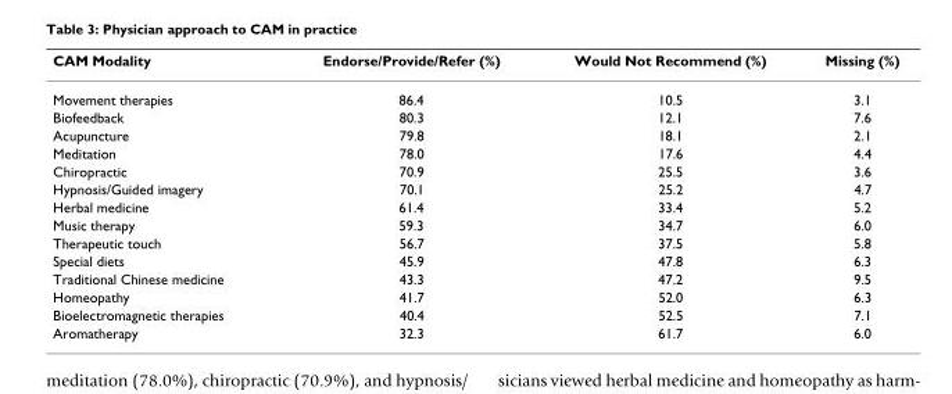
<table><thead><tr><td>CAM Modality</td><td>Endorse/Provide/Refer (%)</td><td>Would Not Recommend (%)</td><td>Missing (%)</td></tr></thead><tbody><tr><td>Movement therapies</td><td>86.4</td><td>10.5</td><td>3.1</td></tr><tr><td>Biofeedback</td><td>80.3</td><td>12.1</td><td>7.6</td></tr><tr><td>Acupuncture</td><td>79.8</td><td>18.1</td><td>2.1</td></tr><tr><td>Meditation</td><td>78.0</td><td>17.6</td><td>4.4</td></tr><tr><td>Chiropractic</td><td>70.9</td><td>25.5</td><td>3.6</td></tr><tr><td>Hypnosis/Guided imagery</td><td>70.1</td><td>25.2</td><td>4.7</td></tr><tr><td>Herbal medicine</td><td>61.4</td><td>33.4</td><td>5.2</td></tr><tr><td>Music therapy</td><td>59.3</td><td>34.7</td><td>6.0</td></tr><tr><td>Therapeutic touch</td><td>56.7</td><td>37.5</td><td>5.8</td></tr><tr><td>Special diets</td><td>45.9</td><td>47.8</td><td>6.3</td></tr><tr><td>Traditional Chinese medicine</td><td>43.3</td><td>47.2</td><td>9.5</td></tr><tr><td>Homeopathy</td><td>41.7</td><td>52.0</td><td>6.3</td></tr><tr><td>Bioelectromagnetic therapies</td><td>40.4</td><td>52.5</td><td>7.1</td></tr><tr><td>Aromatherapy</td><td>32.3</td><td>61.7</td><td>6.0</td></tr></tbody></table>